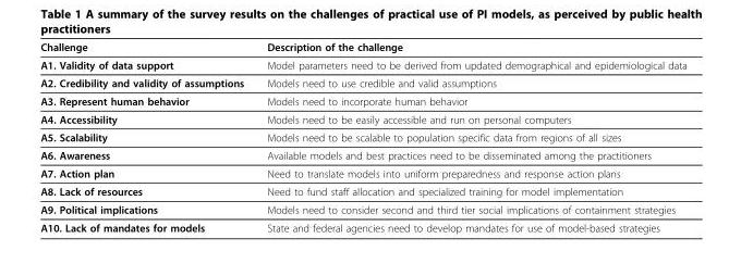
<table><thead><tr><td>Challenge</td><td>Description of the challenge</td></tr></thead><tbody><tr><td>A1. Validity of data support</td><td>Model parameters need to be derived from updated demographical and epidemiological data</td></tr><tr><td>A2. Credibility and validity of assumptions</td><td>Models need to use credible and valid assumptions</td></tr><tr><td>A3. Represent human behavior</td><td>Models need to incorporate human behavior</td></tr><tr><td>A4. Accessibility</td><td>Models need to be easily accessible and run on personal computers</td></tr><tr><td>A5. Scalability</td><td>Models need to be scalable to population specific data from regions of all sizes</td></tr><tr><td>A6. Awareness</td><td>Available models and best practices need to be disseminated among the practitioners</td></tr><tr><td>A7. Action plan</td><td>Need to translate models into uniform preparedness and response action plans</td></tr><tr><td>A8. Lack of resources</td><td>Need to fund staff allocation and specialized training for model implementation</td></tr><tr><td>A9. Political implications</td><td>Models need to consider second and third tier social implications of containment strategies</td></tr><tr><td>A10. Lack of mandates for models</td><td>State and federal agencies need to develop mandates for use of model-based strategies</td></tr></tbody></table>